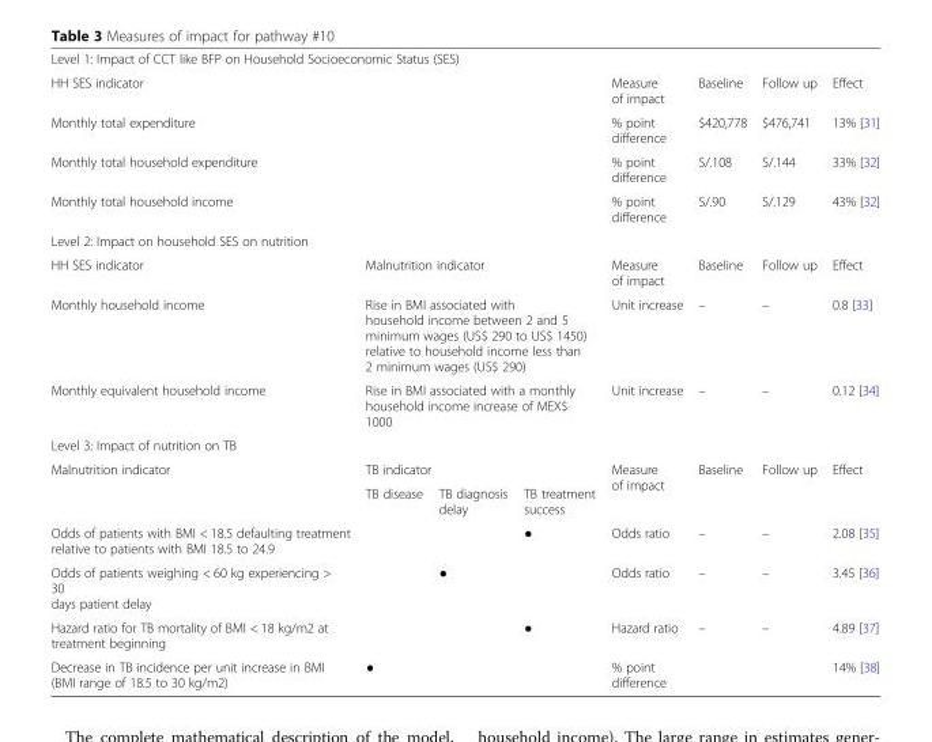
<table><tbody><tr><td colspan="8">Level 1: Impact of CCT like BFP on Household Socioeconomic Status (SES)</td></tr><tr><td colspan="4">HH SES indicator</td><td>Measure of impact</td><td>Baseline</td><td>Follow up</td><td>Effect</td></tr><tr><td colspan="4">Monthly total expenditure</td><td>% point difference</td><td>$420,778</td><td>$476,741</td><td>13% [31]</td></tr><tr><td colspan="4">Monthly total household expenditure</td><td>% point difference</td><td>S/.108</td><td>S/.144</td><td>33% [32]</td></tr><tr><td colspan="4">Monthly total household income</td><td>% point difference</td><td>S/.90</td><td>S/.129</td><td>43% [32]</td></tr><tr><td colspan="8">Level 2: Impact on household SES on nutrition</td></tr><tr><td>HH SES indicator</td><td colspan="3">Malnutrition indicator</td><td>Measure of impact</td><td>Baseline</td><td>Follow up</td><td>Effect</td></tr><tr><td>Monthly household income</td><td colspan="3">Rise in BMI associated with household income between 2 and 5 minimum wages (US$ 290 to US$ 1450) relative to household income less than 2 minimum wages (US$ 290)</td><td>Unit increase</td><td>–</td><td>–</td><td>0.8 [33]</td></tr><tr><td>Monthly equivalent household income</td><td colspan="3">Rise in BMI associated with a monthly household income increase of MEX$ 1000</td><td>Unit increase</td><td>–</td><td>–</td><td>0.12 [34]</td></tr><tr><td colspan="8">Level 3: Impact of nutrition on TB</td></tr><tr><td rowspan="2">Malnutrition indicator</td><td colspan="3">TB indicator</td><td rowspan="2">Measure of impact</td><td rowspan="2">Baseline</td><td rowspan="2">Follow up</td><td rowspan="2">Effect</td></tr><tr><td>TB disease</td><td>TB diagnosis delay</td><td>TB treatment success</td></tr><tr><td>Odds of patients with BMI &lt; 18.5 defaulting treatment relative to patients with BMI 18.5 to 24.9</td><td></td><td></td><td>●</td><td>Odds ratio</td><td>–</td><td>–</td><td>2.08 [35]</td></tr><tr><td>Odds of patients weighing &lt; 60 kg experiencing &gt; 30 days patient delay</td><td></td><td>●</td><td></td><td>Odds ratio</td><td>–</td><td>–</td><td>3.45 [36]</td></tr><tr><td>Hazard ratio for TB mortality of BMI &lt; 18 kg/m2 at treatment beginning</td><td></td><td></td><td>●</td><td>Hazard ratio</td><td>–</td><td>–</td><td>4.89 [37]</td></tr><tr><td>Decrease in TB incidence per unit increase in BMI (BMI range of 18.5 to 30 kg/m2)</td><td>●</td><td></td><td></td><td>% point difference</td><td></td><td></td><td>14% [38]</td></tr></tbody></table>